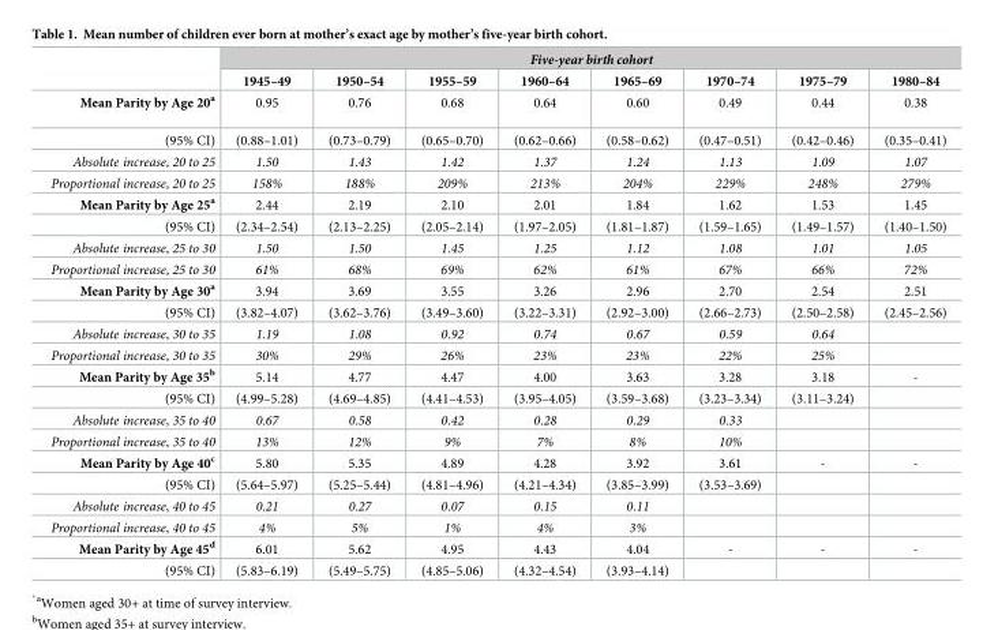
<table><thead><tr><td rowspan="2"></td><td colspan="8">Five-year birth cohort</td></tr><tr><td>1945–49</td><td>1950–54</td><td>1955–59</td><td>1960–64</td><td>1965–69</td><td>1970–74</td><td>1975–79</td><td>1980–84</td></tr></thead><tbody><tr><td>Mean Parity by Age 20<sup>a</sup></td><td>0.95</td><td>0.76</td><td>0.68</td><td>0.64</td><td>0.60</td><td>0.49</td><td>0.44</td><td>0.38</td></tr><tr><td>(95% CI)</td><td>(0.88–1.01)</td><td>(0.73–0.79)</td><td>(0.65–0.70)</td><td>(0.62–0.66)</td><td>(0.58–0.62)</td><td>(0.47–0.51)</td><td>(0.42–0.46)</td><td>(0.35–0.41)</td></tr><tr><td>Absolute increase, 20 to 25</td><td>1.50</td><td>1.43</td><td>1.42</td><td>1.37</td><td>1.24</td><td>1.13</td><td>1.09</td><td>1.07</td></tr><tr><td>Proportional increase, 20 to 25</td><td>158%</td><td>188%</td><td>209%</td><td>213%</td><td>204%</td><td>229%</td><td>248%</td><td>279%</td></tr><tr><td>Mean Parity by Age 25<sup>a</sup></td><td>2.44</td><td>2.19</td><td>2.10</td><td>2.01</td><td>1.84</td><td>1.62</td><td>1.53</td><td>1.45</td></tr><tr><td>(95% CI)</td><td>(2.34–2.54)</td><td>(2.13–2.25)</td><td>(2.05–2.14)</td><td>(1.97–2.05)</td><td>(1.81–1.87)</td><td>(1.59–1.65)</td><td>(1.49–1.57)</td><td>(1.40–1.50)</td></tr><tr><td>Absolute increase, 25 to 30</td><td>1.50</td><td>1.50</td><td>1.45</td><td>1.25</td><td>1.12</td><td>1.08</td><td>1.01</td><td>1.05</td></tr><tr><td>Proportional increase, 25 to 30</td><td>61%</td><td>68%</td><td>69%</td><td>62%</td><td>61%</td><td>67%</td><td>66%</td><td>72%</td></tr><tr><td>Mean Parity by Age 30<sup>a</sup></td><td>3.94</td><td>3.69</td><td>3.55</td><td>3.26</td><td>2.96</td><td>2.70</td><td>2.54</td><td>2.51</td></tr><tr><td>(95% CI)</td><td>(3.82–4.07)</td><td>(3.62–3.76)</td><td>(3.49–3.60)</td><td>(3.22–3.31)</td><td>(2.92–3.00)</td><td>(2.66–2.73)</td><td>(2.50–2.58)</td><td>(2.45–2.56)</td></tr><tr><td>Absolute increase, 30 to 35</td><td>1.19</td><td>1.08</td><td>0.92</td><td>0.74</td><td>0.67</td><td>0.59</td><td>0.64</td><td></td></tr><tr><td>Proportional increase, 30 to 35</td><td>30%</td><td>29%</td><td>26%</td><td>23%</td><td>23%</td><td>22%</td><td>25%</td><td></td></tr><tr><td>Mean Parity by Age 35<sup>b</sup></td><td>5.14</td><td>4.77</td><td>4.47</td><td>4.00</td><td>3.63</td><td>3.28</td><td>3.18</td><td>-</td></tr><tr><td>(95% CI)</td><td>(4.99–5.28)</td><td>(4.69–4.85)</td><td>(4.41–4.53)</td><td>(3.95–4.05)</td><td>(3.59–3.68)</td><td>(3.23–3.34)</td><td>(3.11–3.24)</td><td></td></tr><tr><td>Absolute increase, 35 to 40</td><td>0.67</td><td>0.58</td><td>0.42</td><td>0.28</td><td>0.29</td><td>0.33</td><td></td><td></td></tr><tr><td>Proportional increase, 35 to 40</td><td>13%</td><td>12%</td><td>9%</td><td>7%</td><td>8%</td><td>10%</td><td></td><td></td></tr><tr><td>Mean Parity by Age 40<sup>c</sup></td><td>5.80</td><td>5.35</td><td>4.89</td><td>4.28</td><td>3.92</td><td>3.61</td><td>-</td><td>-</td></tr><tr><td>(95% CI)</td><td>(5.64–5.97)</td><td>(5.25–5.44)</td><td>(4.81–4.96)</td><td>(4.21–4.34)</td><td>(3.85–3.99)</td><td>(3.53–3.69)</td><td></td><td></td></tr><tr><td>Absolute increase, 40 to 45</td><td>0.21</td><td>0.27</td><td>0.07</td><td>0.15</td><td>0.11</td><td></td><td></td><td></td></tr><tr><td>Proportional increase, 40 to 45</td><td>4%</td><td>5%</td><td>1%</td><td>4%</td><td>3%</td><td></td><td></td><td></td></tr><tr><td>Mean Parity by Age 45<sup>d</sup></td><td>6.01</td><td>5.62</td><td>4.95</td><td>4.43</td><td>4.04</td><td>-</td><td>-</td><td>-</td></tr><tr><td>(95% CI)</td><td>(5.83–6.19)</td><td>(5.49–5.75)</td><td>(4.85–5.06)</td><td>(4.32–4.54)</td><td>(3.93–4.14)</td><td></td><td></td><td></td></tr></tbody></table>